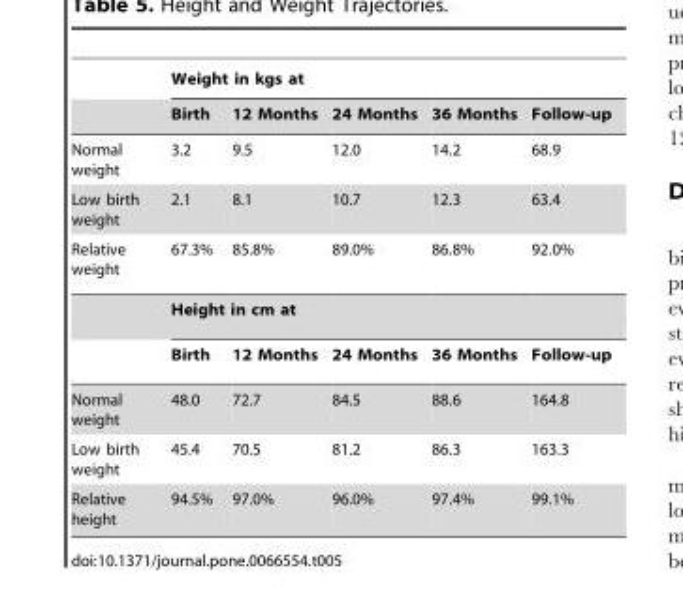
<table><thead><tr><td rowspan="2"></td><td colspan="5">Weight in kgs at</td></tr><tr><td>Birth</td><td>12 Months</td><td>24 Months</td><td>36 Months</td><td>Follow-up</td></tr></thead><tbody><tr><td>Normal weight</td><td>3.2</td><td>9.5</td><td>12.0</td><td>14.2</td><td>68.9</td></tr><tr><td>Low birth weight</td><td>2.1</td><td>8.1</td><td>10.7</td><td>12.3</td><td>63.4</td></tr><tr><td rowspan="3">Relative weight</td><td>67.3%</td><td>85.8%</td><td>89.0%</td><td>86.8%</td><td>92.0%</td></tr><tr><td colspan="5">Height in cm at</td></tr><tr><td>Birth</td><td>12 Months</td><td>24 Months</td><td>36 Months</td><td>Follow-up</td></tr><tr><td>Normal weight</td><td>48.0</td><td>72.7</td><td>84.5</td><td>88.6</td><td>164.8</td></tr><tr><td>Low birth weight</td><td>45.4</td><td>70.5</td><td>81.2</td><td>86.3</td><td>163.3</td></tr><tr><td>Relative height</td><td>94.5%</td><td>97.0%</td><td>96.0%</td><td>97.4%</td><td>99.1%</td></tr></tbody></table>